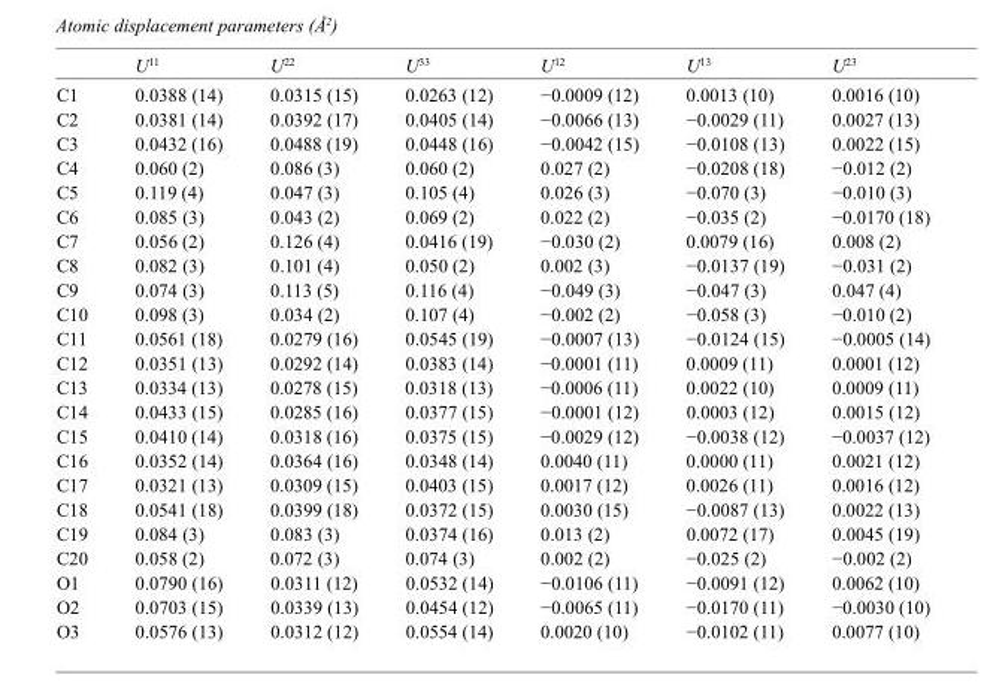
<table><thead><tr><td></td><td>U<sup>11</sup></td><td>U<sup>22</sup></td><td>U<sup>33</sup></td><td>U<sup>12</sup></td><td>U<sup>13</sup></td><td>U<sup>23</sup></td></tr></thead><tbody><tr><td>C1</td><td>0.0388 (14)</td><td>0.0315 (15)</td><td>0.0263 (12)</td><td>−0.0009 (12)</td><td>0.0013 (10)</td><td>0.0016 (10)</td></tr><tr><td>C2</td><td>0.0381 (14)</td><td>0.0392 (17)</td><td>0.0405 (14)</td><td>−0.0066 (13)</td><td>−0.0029 (11)</td><td>0.0027 (13)</td></tr><tr><td>C3</td><td>0.0432 (16)</td><td>0.0488 (19)</td><td>0.0448 (16)</td><td>−0.0042 (15)</td><td>−0.0108 (13)</td><td>0.0022 (15)</td></tr><tr><td>C4</td><td>0.060 (2)</td><td>0.086 (3)</td><td>0.060 (2)</td><td>0.027 (2)</td><td>−0.0208 (18)</td><td>−0.012 (2)</td></tr><tr><td>C5</td><td>0.119 (4)</td><td>0.047 (3)</td><td>0.105 (4)</td><td>0.026 (3)</td><td>−0.070 (3)</td><td>−0.010 (3)</td></tr><tr><td>C6</td><td>0.085 (3)</td><td>0.043 (2)</td><td>0.069 (2)</td><td>0.022 (2)</td><td>−0.035 (2)</td><td>−0.0170 (18)</td></tr><tr><td>C7</td><td>0.056 (2)</td><td>0.126 (4)</td><td>0.0416 (19)</td><td>−0.030 (2)</td><td>0.0079 (16)</td><td>0.008 (2)</td></tr><tr><td>C8</td><td>0.082 (3)</td><td>0.101 (4)</td><td>0.050 (2)</td><td>0.002 (3)</td><td>−0.0137 (19)</td><td>−0.031 (2)</td></tr><tr><td>C9</td><td>0.074 (3)</td><td>0.113 (5)</td><td>0.116 (4)</td><td>−0.049 (3)</td><td>−0.047 (3)</td><td>0.047 (4)</td></tr><tr><td>C10</td><td>0.098 (3)</td><td>0.034 (2)</td><td>0.107 (4)</td><td>−0.002 (2)</td><td>−0.058 (3)</td><td>−0.010 (2)</td></tr><tr><td>C11</td><td>0.0561 (18)</td><td>0.0279 (16)</td><td>0.0545 (19)</td><td>−0.0007 (13)</td><td>−0.0124 (15)</td><td>−0.0005 (14)</td></tr><tr><td>C12</td><td>0.0351 (13)</td><td>0.0292 (14)</td><td>0.0383 (14)</td><td>−0.0001 (11)</td><td>0.0009 (11)</td><td>0.0001 (12)</td></tr><tr><td>C13</td><td>0.0334 (13)</td><td>0.0278 (15)</td><td>0.0318 (13)</td><td>−0.0006 (11)</td><td>0.0022 (10)</td><td>0.0009 (11)</td></tr><tr><td>C14</td><td>0.0433 (15)</td><td>0.0285 (16)</td><td>0.0377 (15)</td><td>−0.0001 (12)</td><td>0.0003 (12)</td><td>0.0015 (12)</td></tr><tr><td>C15</td><td>0.0410 (14)</td><td>0.0318 (16)</td><td>0.0375 (15)</td><td>−0.0029 (12)</td><td>−0.0038 (12)</td><td>−0.0037 (12)</td></tr><tr><td>C16</td><td>0.0352 (14)</td><td>0.0364 (16)</td><td>0.0348 (14)</td><td>0.0040 (11)</td><td>0.0000 (11)</td><td>0.0021 (12)</td></tr><tr><td>C17</td><td>0.0321 (13)</td><td>0.0309 (15)</td><td>0.0403 (15)</td><td>0.0017 (12)</td><td>0.0026 (11)</td><td>0.0016 (12)</td></tr><tr><td>C18</td><td>0.0541 (18)</td><td>0.0399 (18)</td><td>0.0372 (15)</td><td>0.0030 (15)</td><td>−0.0087 (13)</td><td>0.0022 (13)</td></tr><tr><td>C19</td><td>0.084 (3)</td><td>0.083 (3)</td><td>0.0374 (16)</td><td>0.013 (2)</td><td>0.0072 (17)</td><td>0.0045 (19)</td></tr><tr><td>C20</td><td>0.058 (2)</td><td>0.072 (3)</td><td>0.074 (3)</td><td>0.002 (2)</td><td>−0.025 (2)</td><td>−0.002 (2)</td></tr><tr><td>O1</td><td>0.0790 (16)</td><td>0.0311 (12)</td><td>0.0532 (14)</td><td>−0.0106 (11)</td><td>−0.0091 (12)</td><td>0.0062 (10)</td></tr><tr><td>O2</td><td>0.0703 (15)</td><td>0.0339 (13)</td><td>0.0454 (12)</td><td>−0.0065 (11)</td><td>−0.0170 (11)</td><td>−0.0030 (10)</td></tr><tr><td>O3</td><td>0.0576 (13)</td><td>0.0312 (12)</td><td>0.0554 (14)</td><td>0.0020 (10)</td><td>−0.0102 (11)</td><td>0.0077 (10)</td></tr></tbody></table>